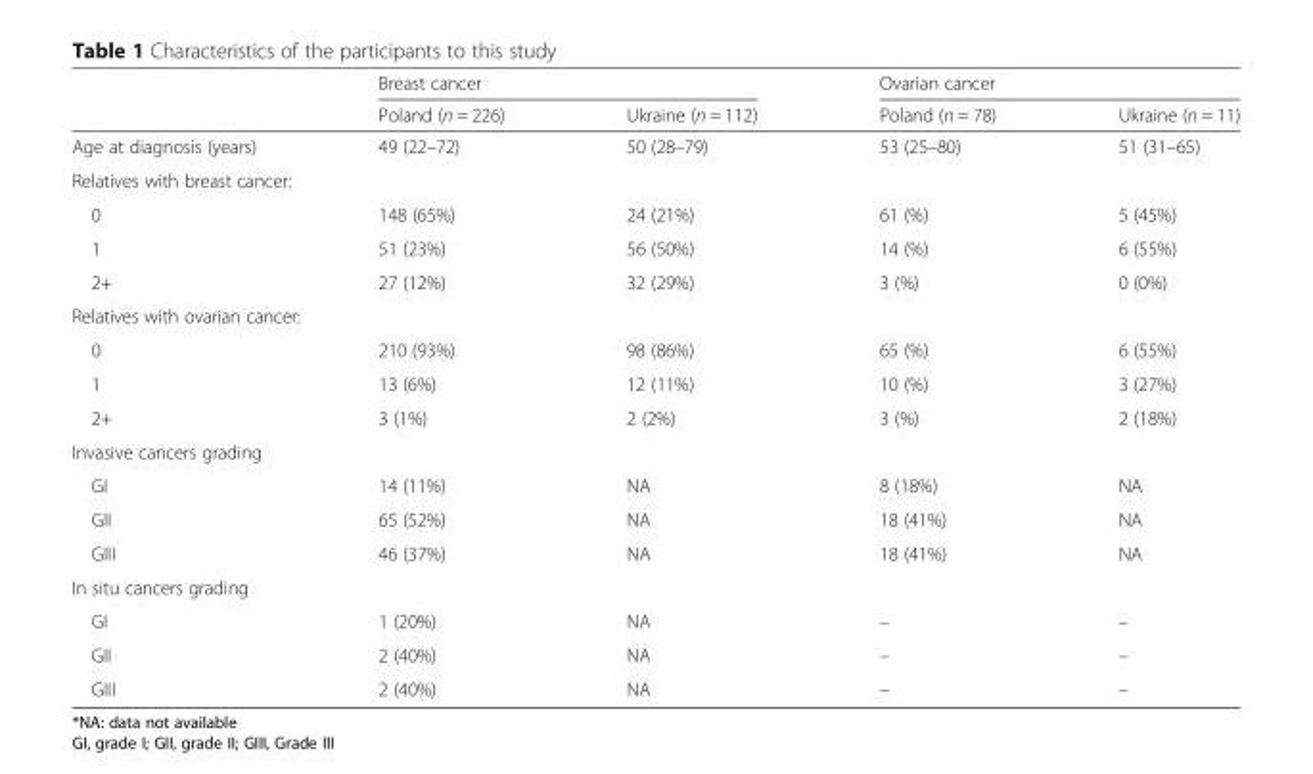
<table><thead><tr><td rowspan="2"></td><td colspan="2">Breast cancer</td><td colspan="2">Ovarian cancer</td></tr><tr><td>Poland (n = 226)</td><td>Ukraine (n = 112)</td><td>Poland (n = 78)</td><td>Ukraine (n = 11)</td></tr></thead><tbody><tr><td>Age at diagnosis (years)</td><td>49 (22–72)</td><td>50 (28–79)</td><td>53 (25–80)</td><td>51 (31–65)</td></tr><tr><td colspan="5">Relatives with breast cancer:</td></tr><tr><td>0</td><td>148 (65%)</td><td>24 (21%)</td><td>61 (%)</td><td>5 (45%)</td></tr><tr><td>1</td><td>51 (23%)</td><td>56 (50%)</td><td>14 (%)</td><td>6 (55%)</td></tr><tr><td>2+</td><td>27 (12%)</td><td>32 (29%)</td><td>3 (%)</td><td>0 (0%)</td></tr><tr><td colspan="5">Relatives with ovarian cancer:</td></tr><tr><td>0</td><td>210 (93%)</td><td>98 (86%)</td><td>65 (%)</td><td>6 (55%)</td></tr><tr><td>1</td><td>13 (6%)</td><td>12 (11%)</td><td>10 (%)</td><td>3 (27%)</td></tr><tr><td>2+</td><td>3 (1%)</td><td>2 (2%)</td><td>3 (%)</td><td>2 (18%)</td></tr><tr><td colspan="5">Invasive cancers grading</td></tr><tr><td>GI</td><td>14 (11%)</td><td>NA</td><td>8 (18%)</td><td>NA</td></tr><tr><td>GII</td><td>65 (52%)</td><td>NA</td><td>18 (41%)</td><td>NA</td></tr><tr><td>GIII</td><td>46 (37%)</td><td>NA</td><td>18 (41%)</td><td>NA</td></tr><tr><td colspan="5">In situ cancers grading</td></tr><tr><td>GI</td><td>1 (20%)</td><td>NA</td><td>–</td><td>–</td></tr><tr><td>GII</td><td>2 (40%)</td><td>NA</td><td>–</td><td>–</td></tr><tr><td>GIII</td><td>2 (40%)</td><td>NA</td><td>–</td><td>–</td></tr></tbody></table>